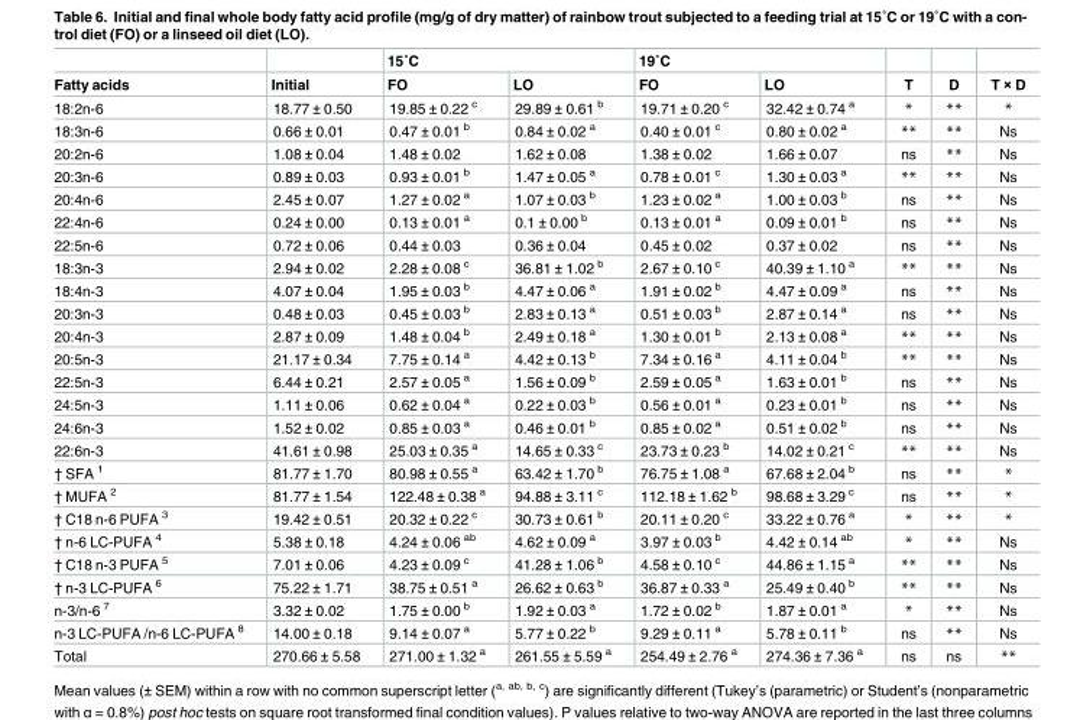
<table><thead><tr><td rowspan="2">Fatty acids</td><td rowspan="2">Initial</td><td colspan="2">15˚C</td><td colspan="2">19˚C</td><td rowspan="2">T</td><td rowspan="2">D</td><td rowspan="2">T × D</td></tr><tr><td>FO</td><td>LO</td><td>FO</td><td>LO</td></tr></thead><tbody><tr><td>18:2n-6</td><td>18.77 ± 0.50</td><td>19.85 ± 0.22 <sup>c</sup></td><td>29.89 ± 0.61 <sup>b</sup></td><td>19.71 ± 0.20 <sup>c</sup></td><td>32.42 ± 0.74 <sup>a</sup></td><td>*</td><td>**</td><td>*</td></tr><tr><td>18:3n-6</td><td>0.66 ± 0.01</td><td>0.47 ± 0.01 <sup>b</sup></td><td>0.84 ± 0.02 <sup>a</sup></td><td>0.40 ± 0.01 <sup>c</sup></td><td>0.80 ± 0.02 <sup>a</sup></td><td>**</td><td>**</td><td>Ns</td></tr><tr><td>20:2n-6</td><td>1.08 ± 0.04</td><td>1.48 ± 0.02</td><td>1.62 ± 0.08</td><td>1.38 ± 0.02</td><td>1.66 ± 0.07</td><td>ns</td><td>**</td><td>Ns</td></tr><tr><td>20:3n-6</td><td>0.89 ± 0.03</td><td>0.93 ± 0.01 <sup>b</sup></td><td>1.47 ± 0.05 <sup>a</sup></td><td>0.78 ± 0.01 <sup>c</sup></td><td>1.30 ± 0.03 <sup>a</sup></td><td>**</td><td>**</td><td>Ns</td></tr><tr><td>20:4n-6</td><td>2.45 ± 0.07</td><td>1.27 ± 0.02 <sup>a</sup></td><td>1.07 ± 0.03 <sup>b</sup></td><td>1.23 ± 0.02 <sup>a</sup></td><td>1.00 ± 0.03 <sup>b</sup></td><td>ns</td><td>**</td><td>Ns</td></tr><tr><td>22:4n-6</td><td>0.24 ± 0.00</td><td>0.13 ± 0.01 <sup>a</sup></td><td>0.1 ± 0.00 <sup>b</sup></td><td>0.13 ± 0.01 <sup>a</sup></td><td>0.09 ± 0.01 <sup>b</sup></td><td>ns</td><td>**</td><td>Ns</td></tr><tr><td>22:5n-6</td><td>0.72 ± 0.06</td><td>0.44 ± 0.03</td><td>0.36 ± 0.04</td><td>0.45 ± 0.02</td><td>0.37 ± 0.02</td><td>ns</td><td>**</td><td>Ns</td></tr><tr><td>18:3n-3</td><td>2.94 ± 0.02</td><td>2.28 ± 0.08 <sup>c</sup></td><td>36.81 ± 1.02 <sup>b</sup></td><td>2.67 ± 0.10 <sup>c</sup></td><td>40.39 ± 1.10 <sup>a</sup></td><td>**</td><td>**</td><td>Ns</td></tr><tr><td>18:4n-3</td><td>4.07 ± 0.04</td><td>1.95 ± 0.03 <sup>b</sup></td><td>4.47 ± 0.06 <sup>a</sup></td><td>1.91 ± 0.02 <sup>b</sup></td><td>4.47 ± 0.09 <sup>a</sup></td><td>ns</td><td>**</td><td>Ns</td></tr><tr><td>20:3n-3</td><td>0.48 ± 0.03</td><td>0.45 ± 0.03 <sup>b</sup></td><td>2.83 ± 0.13 <sup>a</sup></td><td>0.51 ± 0.03 <sup>b</sup></td><td>2.87 ± 0.14 <sup>a</sup></td><td>ns</td><td>**</td><td>Ns</td></tr><tr><td>20:4n-3</td><td>2.87 ± 0.09</td><td>1.48 ± 0.04 <sup>b</sup></td><td>2.49 ± 0.18 <sup>a</sup></td><td>1.30 ± 0.01 <sup>b</sup></td><td>2.13 ± 0.08 <sup>a</sup></td><td>**</td><td>**</td><td>Ns</td></tr><tr><td>20:5n-3</td><td>21.17 ± 0.34</td><td>7.75 ± 0.14 <sup>a</sup></td><td>4.42 ± 0.13 <sup>b</sup></td><td>7.34 ± 0.16 <sup>a</sup></td><td>4.11 ± 0.04 <sup>b</sup></td><td>**</td><td>**</td><td>Ns</td></tr><tr><td>22:5n-3</td><td>6.44 ± 0.21</td><td>2.57 ± 0.05 <sup>a</sup></td><td>1.56 ± 0.09 <sup>b</sup></td><td>2.59 ± 0.05 <sup>a</sup></td><td>1.63 ± 0.01 <sup>b</sup></td><td>ns</td><td>**</td><td>Ns</td></tr><tr><td>24:5n-3</td><td>1.11 ± 0.06</td><td>0.62 ± 0.04 <sup>a</sup></td><td>0.22 ± 0.03 <sup>b</sup></td><td>0.56 ± 0.01 <sup>a</sup></td><td>0.23 ± 0.01 <sup>b</sup></td><td>ns</td><td>**</td><td>Ns</td></tr><tr><td>24:6n-3</td><td>1.52 ± 0.02</td><td>0.85 ± 0.03 <sup>a</sup></td><td>0.46 ± 0.01 <sup>b</sup></td><td>0.85 ± 0.02 <sup>a</sup></td><td>0.51 ± 0.02 <sup>b</sup></td><td>ns</td><td>**</td><td>Ns</td></tr><tr><td>22:6n-3</td><td>41.61 ± 0.98</td><td>25.03 ± 0.35 <sup>a</sup></td><td>14.65 ± 0.33 <sup>c</sup></td><td>23.73 ± 0.23 <sup>b</sup></td><td>14.02 ± 0.21 <sup>c</sup></td><td>**</td><td>**</td><td>Ns</td></tr><tr><td>† SFA 1</td><td>81.77 ± 1.70</td><td>80.98 ± 0.55 <sup>a</sup></td><td>63.42 ± 1.70 <sup>b</sup></td><td>76.75 ± 1.08 <sup>a</sup></td><td>67.68 ± 2.04 <sup>b</sup></td><td>ns</td><td>**</td><td>*</td></tr><tr><td>† MUFA 2</td><td>81.77 ± 1.54</td><td>122.48 ± 0.38 <sup>a</sup></td><td>94.88 ± 3.11 <sup>c</sup></td><td>112.18 ± 1.62 <sup>b</sup></td><td>98.68 ± 3.29 <sup>c</sup></td><td>ns</td><td>**</td><td>*</td></tr><tr><td>† C18 n-6 PUFA 3</td><td>19.42 ± 0.51</td><td>20.32 ± 0.22 <sup>c</sup></td><td>30.73 ± 0.61 <sup>b</sup></td><td>20.11 ± 0.20 <sup>c</sup></td><td>33.22 ± 0.76 <sup>a</sup></td><td>*</td><td>**</td><td>*</td></tr><tr><td>† n-6 LC-PUFA 4</td><td>5.38 ± 0.18</td><td>4.24 ± 0.06 <sup>ab</sup></td><td>4.62 ± 0.09 <sup>a</sup></td><td>3.97 ± 0.03 <sup>b</sup></td><td>4.42 ± 0.14 <sup>ab</sup></td><td>*</td><td>**</td><td>Ns</td></tr><tr><td>† C18 n-3 PUFA 5</td><td>7.01 ± 0.06</td><td>4.23 ± 0.09 <sup>c</sup></td><td>41.28 ± 1.06 <sup>b</sup></td><td>4.58 ± 0.10 <sup>c</sup></td><td>44.86 ± 1.15 <sup>a</sup></td><td>**</td><td>**</td><td>Ns</td></tr><tr><td>† n-3 LC-PUFA 6</td><td>75.22 ± 1.71</td><td>38.75 ± 0.51 <sup>a</sup></td><td>26.62 ± 0.63 <sup>b</sup></td><td>36.87 ± 0.33 <sup>a</sup></td><td>25.49 ± 0.40 <sup>b</sup></td><td>**</td><td>**</td><td>Ns</td></tr><tr><td>n-3/n-6 <sup>7</sup></td><td>3.32 ± 0.02</td><td>1.75 ± 0.00 <sup>b</sup></td><td>1.92 ± 0.03 <sup>a</sup></td><td>1.72 ± 0.02 <sup>b</sup></td><td>1.87 ± 0.01 <sup>a</sup></td><td>*</td><td>**</td><td>Ns</td></tr><tr><td>n-3 LC-PUFA /n-6 LC-PUFA <sup>8</sup></td><td>14.00 ± 0.18</td><td>9.14 ± 0.07 <sup>a</sup></td><td>5.77 ± 0.22 <sup>b</sup></td><td>9.29 ± 0.11 <sup>a</sup></td><td>5.78 ± 0.11 <sup>b</sup></td><td>ns</td><td>**</td><td>Ns</td></tr><tr><td>Total</td><td>270.66 ± 5.58</td><td>271.00 ± 1.32 <sup>a</sup></td><td>261.55 ± 5.59 <sup>a</sup></td><td>254.49 ± 2.76 <sup>a</sup></td><td>274.36 ± 7.36 <sup>a</sup></td><td>ns</td><td>ns</td><td>**</td></tr></tbody></table>